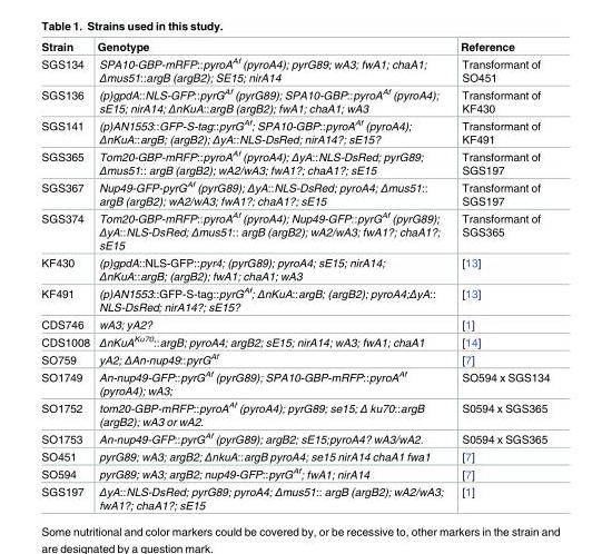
<table><thead><tr><td>Strain</td><td>Genotype</td><td>Reference</td></tr></thead><tbody><tr><td>SGS134</td><td>SPA10-GBP-mRFP::pyroA<sup>Af</sup> (pyroA4); pyrG89; wA3; fwA1; chaA1; Δmus51::argB (argB2); SE15; nirA14</td><td>Transformant of SO451</td></tr><tr><td>SGS136</td><td>(p)gpdA::NLS-GFP::pyrG<sup>Af</sup> (pyrG89); SPA10-GBP::pyroA<sup>Af</sup> (pyroA4); sE15; nirA14; ΔnKuA::argB (argB2); fwA1; chaA1; wA3</td><td>Transformant of KF430</td></tr><tr><td>SGS141</td><td>(p)AN1553::GFP-S-tag::pyrG<sup>Af</sup>; SPA10-GBP::pyroA<sup>Af</sup> (pyroA4); ΔnKuA::argB; (argB2); ΔyA::NLS-DsRed; nirA14?; sE15?</td><td>Transformant of KF491</td></tr><tr><td>SGS365</td><td>Tom20-GBP-mRFP::pyroA<sup>Af</sup> (pyroA4); ΔyA::NLS-DsRed; pyrG89; Δmus51:: argB (argB2); wA2/wA3; fwA1?; chaA1?; sE15</td><td>Transformant of SGS197</td></tr><tr><td>SGS367</td><td>Nup49-GFP-pyrG<sup>Af</sup> (pyrG89); ΔyA::NLS-DsRed; pyroA4; Δmus51:: argB (argB2); wA2/wA3; fwA1?; chaA1?; sE15</td><td>Transformant of SGS197</td></tr><tr><td>SGS374</td><td>Tom20-GBP-mRFP::pyroA<sup>Af</sup> (pyroA4); Nup49-GFP::pyrG<sup>Af</sup> (pyrG89); ΔyA::NLS-DsRed; Δmus51:: argB (argB2); wA2/wA3; fwA1?; chaA1?; sE15</td><td>Transformant of SGS365</td></tr><tr><td>KF430</td><td>(p)gpdA::NLS-GFP::pyr4; (pyrG89); pyroA4; sE15; nirA14; ΔnKuA::argB; (argB2); fwA1; chaA1; wA3</td><td>[13]</td></tr><tr><td>KF491</td><td>(p)AN1553::GFP-S-tag::pyrG<sup>Af</sup>; ΔnKuA::argB; (argB2); pyroA4;ΔyA:: NLS-DsRed; nirA14?; sE15?</td><td>[13]</td></tr><tr><td>CDS746</td><td>wA3; yA2?</td><td>[1]</td></tr><tr><td>CDS1008</td><td>ΔnKuA<sup>Ku70</sup>::argB; pyroA4; argB2; sE15; nirA14; wA3; fwA1; chaA1</td><td>[14]</td></tr><tr><td>SO759</td><td>yA2; ΔAn-nup49::pyrG<sup>Af</sup></td><td>[7]</td></tr><tr><td>SO1749</td><td>An-nup49-GFP::pyrG<sup>Af</sup> (pyrG89); SPA10-GBP-mRFP::pyroA<sup>Af</sup> (pyroA4); wA3;</td><td>SO594 x SGS134</td></tr><tr><td>SO1752</td><td>tom20-GBP-mRFP::pyroA<sup>Af</sup> (pyroA4); pyrG89; se15; Δ ku70::argB (argB2); wA3 or wA2.</td><td>S0594 x SGS365</td></tr><tr><td>SO1753</td><td>An-nup49-GFP::pyrG<sup>Af</sup> (pyrG89); argB2; sE15;pyroA4? wA3/wA2.</td><td>S0594 x SGS365</td></tr><tr><td>SO451</td><td>pyrG89; wA3; argB2; ΔnkuA::argB pyroA4; se15 nirA14 chaA1 fwa1</td><td>[7]</td></tr><tr><td>SO594</td><td>pyrG89; wA3; argB2; nup49-GFP::pyrG<sup>Af</sup>; fwA1; nirA14</td><td>[7]</td></tr><tr><td>SGS197</td><td>ΔyA::NLS-DsRed; pyrG89; pyroA4; Δmus51:: argB (argB2); wA2/wA3; fwA1?; chaA1?; sE15</td><td>[1]</td></tr></tbody></table>